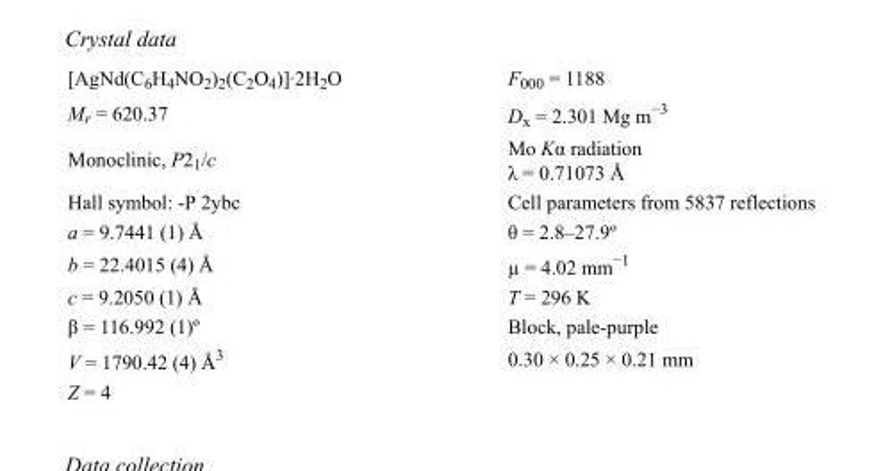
<table><tbody><tr><td>[AgNd(C<sub>6</sub>H<sub>4</sub>NO<sub>2</sub>)<sub>2</sub>(C<sub>2</sub>O<sub>4</sub>)]·2H<sub>2</sub>O</td><td>F000 = 1188</td></tr><tr><td>M<sub>r</sub> = 620.37</td><td>D<sub>x</sub> = 2.301 Mg m<sup>−3</sup></td></tr><tr><td>Monoclinic, P2<sub>1</sub>/c</td><td>Mo Kα radiation λ = 0.71073 Å</td></tr><tr><td>Hall symbol: -P 2ybc</td><td>Cell parameters from 5837 reflections</td></tr><tr><td>a = 9.7441 (1) Å</td><td>θ = 2.8–27.9º</td></tr><tr><td>b = 22.4015 (4) Å</td><td>µ = 4.02 mm<sup>−1</sup></td></tr><tr><td>c = 9.2050 (1) Å</td><td>T = 296 K</td></tr><tr><td>β = 116.992 (1)º</td><td>Block, pale-purple</td></tr><tr><td>V = 1790.42 (4) Å<sup>3</sup></td><td>0.30 × 0.25 × 0.21 mm</td></tr><tr><td>Z = 4</td><td></td></tr></tbody></table>